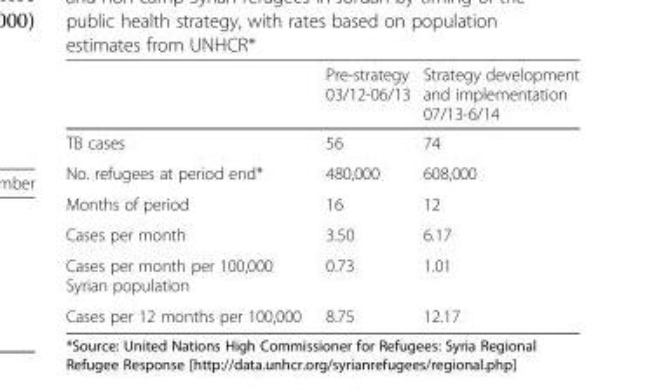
<table><thead><tr><td></td><td>Pre-strategy 03/12-06/13</td><td>Strategy development and implementation 07/13-6/14</td></tr></thead><tbody><tr><td>TB cases</td><td>56</td><td>74</td></tr><tr><td>No. refugees at period end*</td><td>480,000</td><td>608,000</td></tr><tr><td>Months of period</td><td>16</td><td>12</td></tr><tr><td>Cases per month</td><td>3.50</td><td>6.17</td></tr><tr><td>Cases per month per 100,000 Syrian population</td><td>0.73</td><td>1.01</td></tr><tr><td>Cases per 12 months per 100,000</td><td>8.75</td><td>12.17</td></tr></tbody></table>